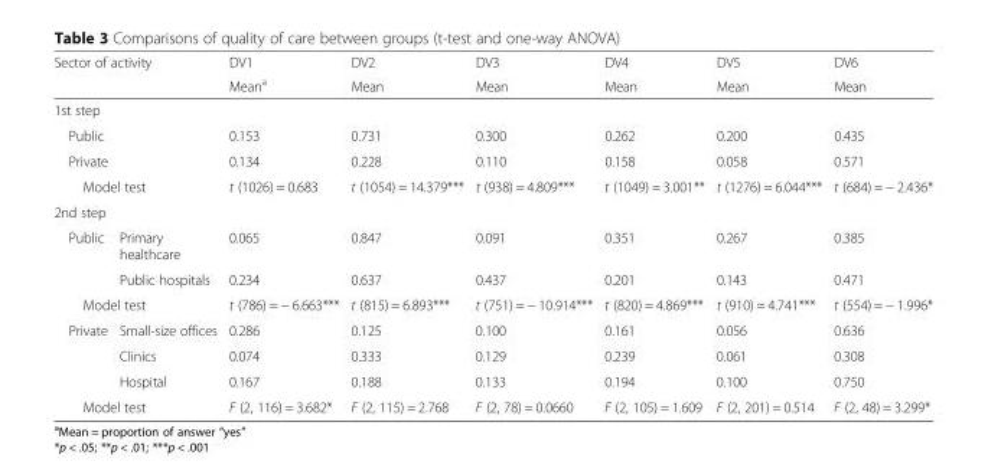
<table><thead><tr><td rowspan="2" colspan="2">Sector of activity</td><td rowspan="2">DV1 Mean<sup>a</sup></td><td rowspan="2">DV2 Mean</td><td rowspan="2">DV3 Mean</td><td rowspan="2">DV4 Mean</td><td rowspan="2">DV5 Mean</td><td rowspan="2">DV6 Mean</td></tr><tr></tr></thead><tbody><tr><td colspan="8">1st step</td></tr><tr><td colspan="2">Public</td><td>0.153</td><td>0.731</td><td>0.300</td><td>0.262</td><td>0.200</td><td>0.435</td></tr><tr><td colspan="2">Private</td><td>0.134</td><td>0.228</td><td>0.110</td><td>0.158</td><td>0.058</td><td>0.571</td></tr><tr><td colspan="2">Model test</td><td>t (1026) = 0.683</td><td>t (1054) = 14.379***</td><td>t (938) = 4.809***</td><td>t (1049) = 3.001**</td><td>t (1276) = 6.044***</td><td>t (684) = − 2.436*</td></tr><tr><td colspan="8">2nd step</td></tr><tr><td rowspan="2">Public</td><td>Primary healthcare</td><td>0.065</td><td>0.847</td><td>0.091</td><td>0.351</td><td>0.267</td><td>0.385</td></tr><tr><td>Public hospitals</td><td>0.234</td><td>0.637</td><td>0.437</td><td>0.201</td><td>0.143</td><td>0.471</td></tr><tr><td colspan="2">Model test</td><td>t (786) = − 6.663***</td><td>t (815) = 6.893***</td><td>t (751) = − 10.914***</td><td>t (820) = 4.869***</td><td>t (910) = 4.741***</td><td>t (554) = − 1.996*</td></tr><tr><td rowspan="3">Private</td><td>Small-size offices</td><td>0.286</td><td>0.125</td><td>0.100</td><td>0.161</td><td>0.056</td><td>0.636</td></tr><tr><td>Clinics</td><td>0.074</td><td>0.333</td><td>0.129</td><td>0.239</td><td>0.061</td><td>0.308</td></tr><tr><td>Hospital</td><td>0.167</td><td>0.188</td><td>0.133</td><td>0.194</td><td>0.100</td><td>0.750</td></tr><tr><td colspan="2">Model test</td><td>F (2, 116) = 3.682*</td><td>F (2, 115) = 2.768</td><td>F (2, 78) = 0.0660</td><td>F (2, 105) = 1.609</td><td>F (2, 201) = 0.514</td><td>F (2, 48) = 3.299*</td></tr></tbody></table>